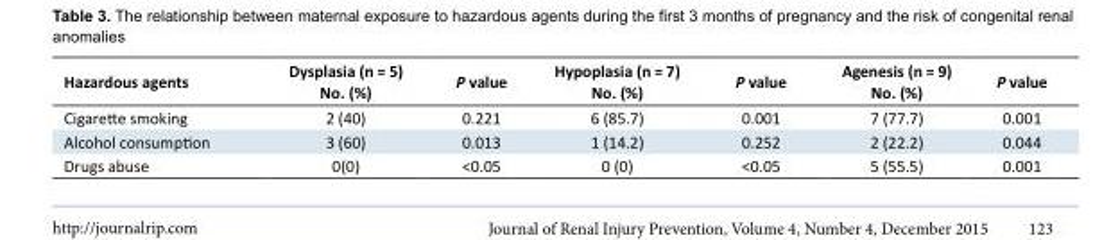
<table><tbody><tr><td>Hazardous agents</td><td>Dysplasia (n = 5) No. (%)</td><td>P value</td><td>Hypoplasia (n = 7) No. (%)</td><td>P value</td><td>Agenesis (n = 9) No. (%)</td><td>P value</td></tr><tr><td>Cigarette smoking</td><td>2 (40)</td><td>0.221</td><td>6 (85.7)</td><td>0.001</td><td>7 (77.7)</td><td>0.001</td></tr><tr><td>Alcohol consumption</td><td>3 (60)</td><td>0.013</td><td>1 (14.2)</td><td>0.252</td><td>2 (22.2)</td><td>0.044</td></tr><tr><td>Drugs abuse</td><td>0(0)</td><td>&lt;0.05</td><td>0 (0)</td><td>&lt;0.05</td><td>5 (55.5)</td><td>0.001</td></tr></tbody></table>